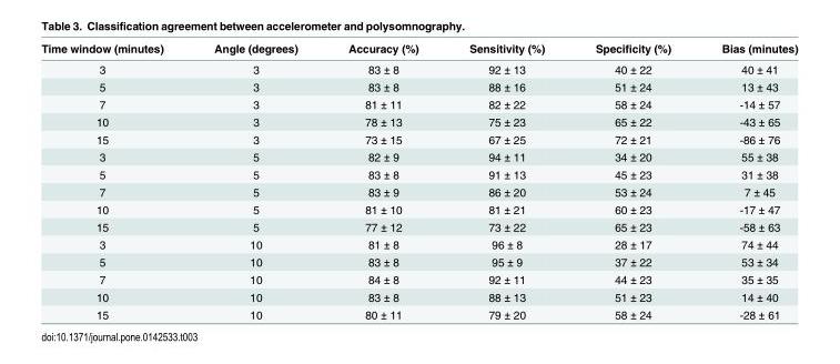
<table><thead><tr><td>Time window (minutes)</td><td>Angle (degrees)</td><td>Accuracy (%)</td><td>Sensitivity (%)</td><td>Specificity (%)</td><td>Bias (minutes)</td></tr></thead><tbody><tr><td>3</td><td>3</td><td>83 ± 8</td><td>92 ± 13</td><td>40 ± 22</td><td>40 ± 41</td></tr><tr><td>5</td><td>3</td><td>83 ± 8</td><td>88 ± 16</td><td>51 ± 24</td><td>13 ± 43</td></tr><tr><td>7</td><td>3</td><td>81 ± 11</td><td>82 ± 22</td><td>58 ± 24</td><td>-14 ± 57</td></tr><tr><td>10</td><td>3</td><td>78 ± 13</td><td>75 ± 23</td><td>65 ± 22</td><td>-43 ± 65</td></tr><tr><td>15</td><td>3</td><td>73 ± 15</td><td>67 ± 25</td><td>72 ± 21</td><td>-86 ± 76</td></tr><tr><td>3</td><td>5</td><td>82 ± 9</td><td>94 ± 11</td><td>34 ± 20</td><td>55 ± 38</td></tr><tr><td>5</td><td>5</td><td>83 ± 8</td><td>91 ± 13</td><td>45 ± 23</td><td>31 ± 38</td></tr><tr><td>7</td><td>5</td><td>83 ± 9</td><td>86 ± 20</td><td>53 ± 24</td><td>7 ± 45</td></tr><tr><td>10</td><td>5</td><td>81 ± 10</td><td>81 ± 21</td><td>60 ± 23</td><td>-17 ± 47</td></tr><tr><td>15</td><td>5</td><td>77 ± 12</td><td>73 ± 22</td><td>65 ± 23</td><td>-58 ± 63</td></tr><tr><td>3</td><td>10</td><td>81 ± 8</td><td>96 ± 8</td><td>28 ± 17</td><td>74 ± 44</td></tr><tr><td>5</td><td>10</td><td>83 ± 8</td><td>95 ± 9</td><td>37 ± 22</td><td>53 ± 34</td></tr><tr><td>7</td><td>10</td><td>84 ± 8</td><td>92 ± 11</td><td>44 ± 23</td><td>35 ± 35</td></tr><tr><td>10</td><td>10</td><td>83 ± 8</td><td>88 ± 13</td><td>51 ± 23</td><td>14 ± 40</td></tr><tr><td>15</td><td>10</td><td>80 ± 11</td><td>79 ± 20</td><td>58 ± 24</td><td>-28 ± 61</td></tr></tbody></table>